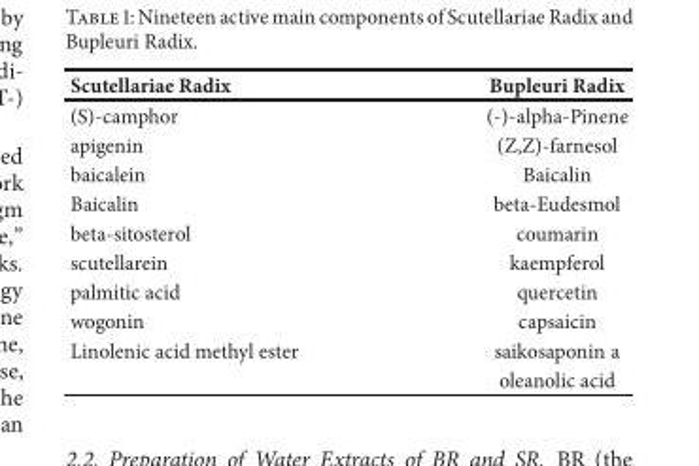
<table><thead><tr><td>Scutellariae Radix</td><td>Bupleuri Radix</td></tr></thead><tbody><tr><td>(S)-camphor</td><td>(-)-alpha-Pinene</td></tr><tr><td>apigenin</td><td>(Z,Z)-farnesol</td></tr><tr><td>baicalein</td><td>Baicalin</td></tr><tr><td>Baicalin</td><td>beta-Eudesmol</td></tr><tr><td>beta-sitosterol</td><td>coumarin</td></tr><tr><td>scutellarein</td><td>kaempferol</td></tr><tr><td>palmitic acid</td><td>quercetin</td></tr><tr><td>wogonin</td><td>capsaicin</td></tr><tr><td rowspan="2">Linolenic acid methyl ester</td><td>saikosaponin a</td></tr><tr><td>oleanolic acid</td></tr></tbody></table>